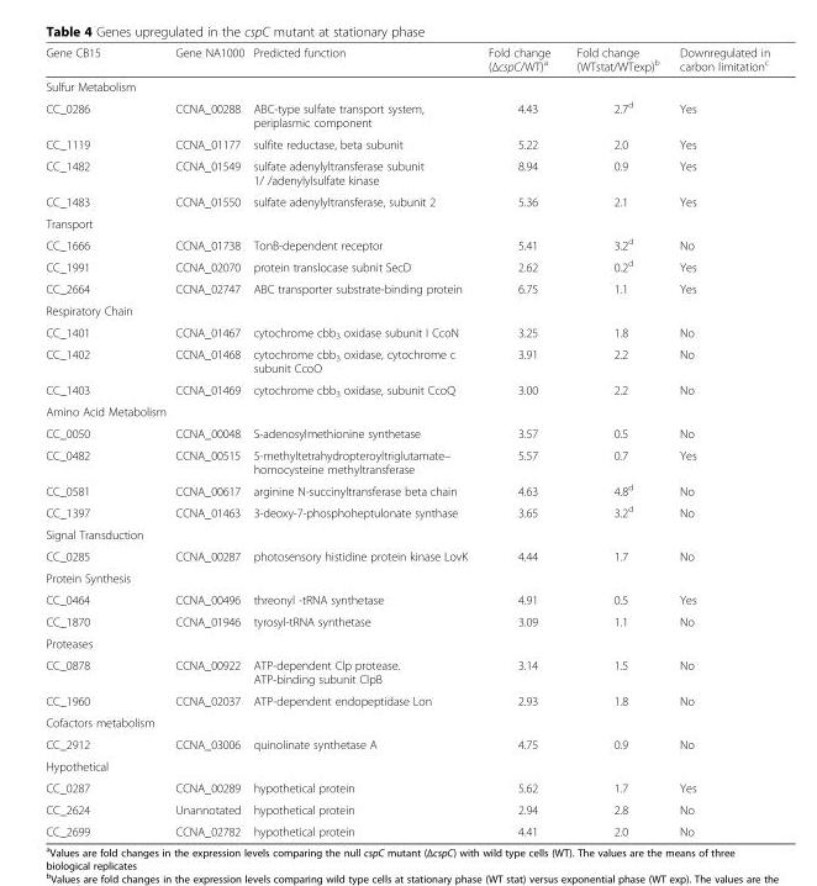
<table><thead><tr><td>Gene CB15</td><td>Gene NA1000</td><td>Predicted function</td><td>Fold change (ΔcspC/WT)a</td><td>Fold change (WTstat/WTexp)<sup>b</sup></td><td>Downregulated in carbon limitation<sup>c</sup></td></tr></thead><tbody><tr><td colspan="6">Sulfur Metabolism</td></tr><tr><td>CC_0286</td><td>CCNA_00288</td><td>ABC-type sulfate transport system, periplasmic component</td><td>4.43</td><td>2.7<sup>d</sup></td><td>Yes</td></tr><tr><td>CC_1119</td><td>CCNA_01177</td><td>sulfite reductase, beta subunit</td><td>5.22</td><td>2.0</td><td>Yes</td></tr><tr><td>CC_1482</td><td>CCNA_01549</td><td>sulfate adenylyltransferase subunit 1/ /adenylylsulfate kinase</td><td>8.94</td><td>0.9</td><td>Yes</td></tr><tr><td>CC_1483</td><td>CCNA_01550</td><td>sulfate adenylyltransferase, subunit 2</td><td>5.36</td><td>2.1</td><td>Yes</td></tr><tr><td colspan="6">Transport</td></tr><tr><td>CC_1666</td><td>CCNA_01738</td><td>TonB-dependent receptor</td><td>5.41</td><td>3.2<sup>d</sup></td><td>No</td></tr><tr><td>CC_1991</td><td>CCNA_02070</td><td>protein translocase subnit SecD</td><td>2.62</td><td>0.2<sup>d</sup></td><td>Yes</td></tr><tr><td>CC_2664</td><td>CCNA_02747</td><td>ABC transporter substrate-binding protein</td><td>6.75</td><td>1.1</td><td>Yes</td></tr><tr><td colspan="6">Respiratory Chain</td></tr><tr><td>CC_1401</td><td>CCNA_01467</td><td>cytochrome cbb<sub>3</sub> oxidase subunit I CcoN</td><td>3.25</td><td>1.8</td><td>No</td></tr><tr><td>CC_1402</td><td>CCNA_01468</td><td>cytochrome cbb<sub>3</sub> oxidase, cytochrome c subunit CcoO</td><td>3.91</td><td>2.2</td><td>No</td></tr><tr><td>CC_1403</td><td>CCNA_01469</td><td>cytochrome cbb<sub>3</sub> oxidase, subunit CcoQ</td><td>3.00</td><td>2.2</td><td>No</td></tr><tr><td colspan="6">Amino Acid Metabolism</td></tr><tr><td>CC_0050</td><td>CCNA_00048</td><td>S-adenosylmethionine synthetase</td><td>3.57</td><td>0.5</td><td>No</td></tr><tr><td>CC_0482</td><td>CCNA_00515</td><td>5-methyltetrahydropteroyltriglutamate– homocysteine methyltransferase</td><td>5.57</td><td>0.7</td><td>Yes</td></tr><tr><td>CC_0581</td><td>CCNA_00617</td><td>arginine N-succinyltransferase beta chain</td><td>4.63</td><td>4.8<sup>d</sup></td><td>No</td></tr><tr><td>CC_1397</td><td>CCNA_01463</td><td>3-deoxy-7-phosphoheptulonate synthase</td><td>3.65</td><td>3.2<sup>d</sup></td><td>No</td></tr><tr><td colspan="6">Signal Transduction</td></tr><tr><td>CC_0285</td><td>CCNA_00287</td><td>photosensory histidine protein kinase LovK</td><td>4.44</td><td>1.7</td><td>No</td></tr><tr><td colspan="6">Protein Synthesis</td></tr><tr><td>CC_0464</td><td>CCNA_00496</td><td>threonyl -tRNA synthetase</td><td>4.91</td><td>0.5</td><td>Yes</td></tr><tr><td>CC_1870</td><td>CCNA_01946</td><td>tyrosyl-tRNA synthetase</td><td>3.09</td><td>1.1</td><td>No</td></tr><tr><td colspan="6">Proteases</td></tr><tr><td>CC_0878</td><td>CCNA_00922</td><td>ATP-dependent Clp protease. ATP-binding subunit ClpB</td><td>3.14</td><td>1.5</td><td>No</td></tr><tr><td>CC_1960</td><td>CCNA_02037</td><td>ATP-dependent endopeptidase Lon</td><td>2.93</td><td>1.8</td><td>No</td></tr><tr><td colspan="6">Cofactors metabolism</td></tr><tr><td>CC_2912</td><td>CCNA_03006</td><td>quinolinate synthetase A</td><td>4.75</td><td>0.9</td><td>No</td></tr><tr><td colspan="6">Hypothetical</td></tr><tr><td>CC_0287</td><td>CCNA_00289</td><td>hypothetical protein</td><td>5.62</td><td>1.7</td><td>Yes</td></tr><tr><td>CC_2624</td><td>Unannotated</td><td>hypothetical protein</td><td>2.94</td><td>2.8</td><td>No</td></tr><tr><td>CC_2699</td><td>CCNA_02782</td><td>hypothetical protein</td><td>4.41</td><td>2.0</td><td>No</td></tr></tbody></table>